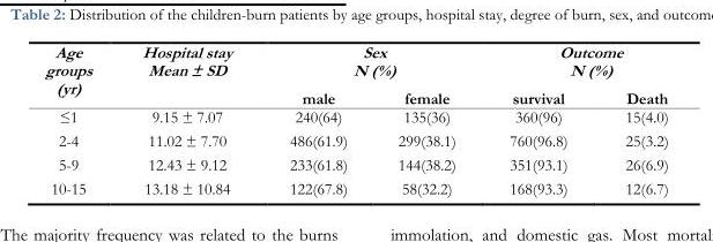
<table><thead><tr><td rowspan="2">Age groups (yr)</td><td rowspan="2">Hospital stay Mean ± SD</td><td colspan="2">Sex N (%)</td><td colspan="2">Outcome N (%)</td></tr><tr><td>male</td><td>female</td><td>survival</td><td>Death</td></tr></thead><tbody><tr><td>≤1</td><td>9.15 ± 7.07</td><td>240(64)</td><td>135(36)</td><td>360(96)</td><td>15(4.0)</td></tr><tr><td>2-4</td><td>11.02 ± 7.70</td><td>486(61.9)</td><td>299(38.1)</td><td>760(96.8)</td><td>25(3.2)</td></tr><tr><td>5-9</td><td>12.43 ± 9.12</td><td>233(61.8)</td><td>144(38.2)</td><td>351(93.1)</td><td>26(6.9)</td></tr><tr><td>10-15</td><td>13.18 ± 10.84</td><td>122(67.8)</td><td>58(32.2)</td><td>168(93.3)</td><td>12(6.7)</td></tr></tbody></table>